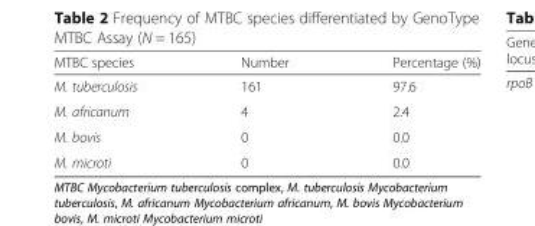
<table><thead><tr><td>MTBC species</td><td>Number</td><td>Percentage (%)</td></tr></thead><tbody><tr><td>M. tuberculosis</td><td>161</td><td>97.6</td></tr><tr><td>M. africanum</td><td>4</td><td>2.4</td></tr><tr><td>M. bovis</td><td>0</td><td>0.0</td></tr><tr><td>M. microti</td><td>0</td><td>0.0</td></tr></tbody></table>